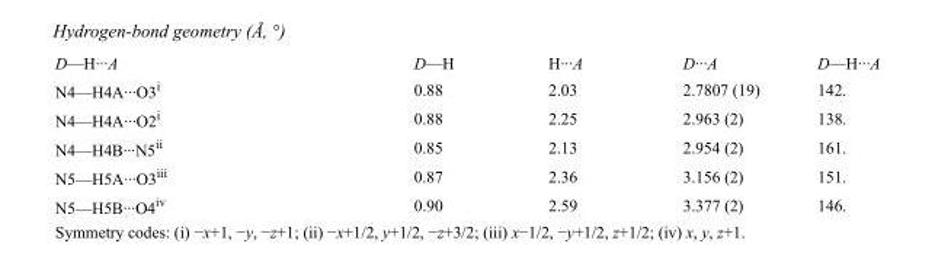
<table><tbody><tr><td>D—H···A</td><td>D—H</td><td>H···A</td><td>D···A</td><td>D—H···A</td></tr><tr><td>N4—H4A···O3<sup>i</sup></td><td>0.88</td><td>2.03</td><td>2.7807 (19)</td><td>142.</td></tr><tr><td>N4—H4A···O2<sup>i</sup></td><td>0.88</td><td>2.25</td><td>2.963 (2)</td><td>138.</td></tr><tr><td>N4—H4B···N5<sup>ii</sup></td><td>0.85</td><td>2.13</td><td>2.954 (2)</td><td>161.</td></tr><tr><td>N5—H5A···O3<sup>iii</sup></td><td>0.87</td><td>2.36</td><td>3.156 (2)</td><td>151.</td></tr><tr><td>N5—H5B···O4<sup>iv</sup></td><td>0.90</td><td>2.59</td><td>3.377 (2)</td><td>146.</td></tr></tbody></table>